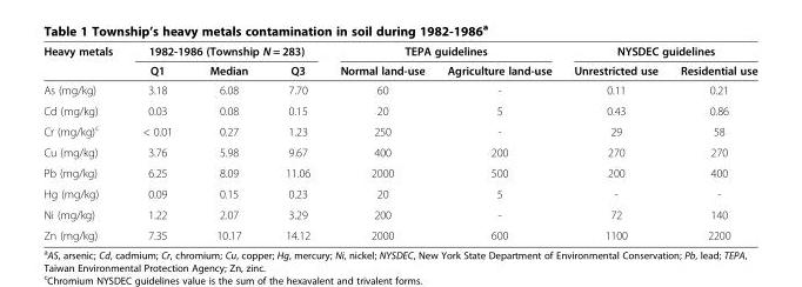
<table><thead><tr><td rowspan="2">Heavy metals</td><td colspan="3">1982-1986 (Township N = 283)</td><td colspan="2">TEPA guidelines</td><td colspan="2">NYSDEC guidelines</td></tr><tr><td>Q1</td><td>Median</td><td>Q3</td><td>Normal land-use</td><td>Agriculture land-use</td><td>Unrestricted use</td><td>Residential use</td></tr></thead><tbody><tr><td>As (mg/kg)</td><td>3.18</td><td>6.08</td><td>7.70</td><td>60</td><td>-</td><td>0.11</td><td>0.21</td></tr><tr><td>Cd (mg/kg)</td><td>0.03</td><td>0.08</td><td>0.15</td><td>20</td><td>5</td><td>0.43</td><td>0.86</td></tr><tr><td>Cr (mg/kg)<sup>c</sup></td><td>&lt; 0.01</td><td>0.27</td><td>1.23</td><td>250</td><td>-</td><td>29</td><td>58</td></tr><tr><td>Cu (mg/kg)</td><td>3.76</td><td>5.98</td><td>9.67</td><td>400</td><td>200</td><td>270</td><td>270</td></tr><tr><td>Pb (mg/kg)</td><td>6.25</td><td>8.09</td><td>11.06</td><td>2000</td><td>500</td><td>200</td><td>400</td></tr><tr><td>Hg (mg/kg)</td><td>0.09</td><td>0.15</td><td>0.23</td><td>20</td><td>5</td><td>-</td><td>-</td></tr><tr><td>Ni (mg/kg)</td><td>1.22</td><td>2.07</td><td>3.29</td><td>200</td><td>-</td><td>72</td><td>140</td></tr><tr><td>Zn (mg/kg)</td><td>7.35</td><td>10.17</td><td>14.12</td><td>2000</td><td>600</td><td>1100</td><td>2200</td></tr></tbody></table>